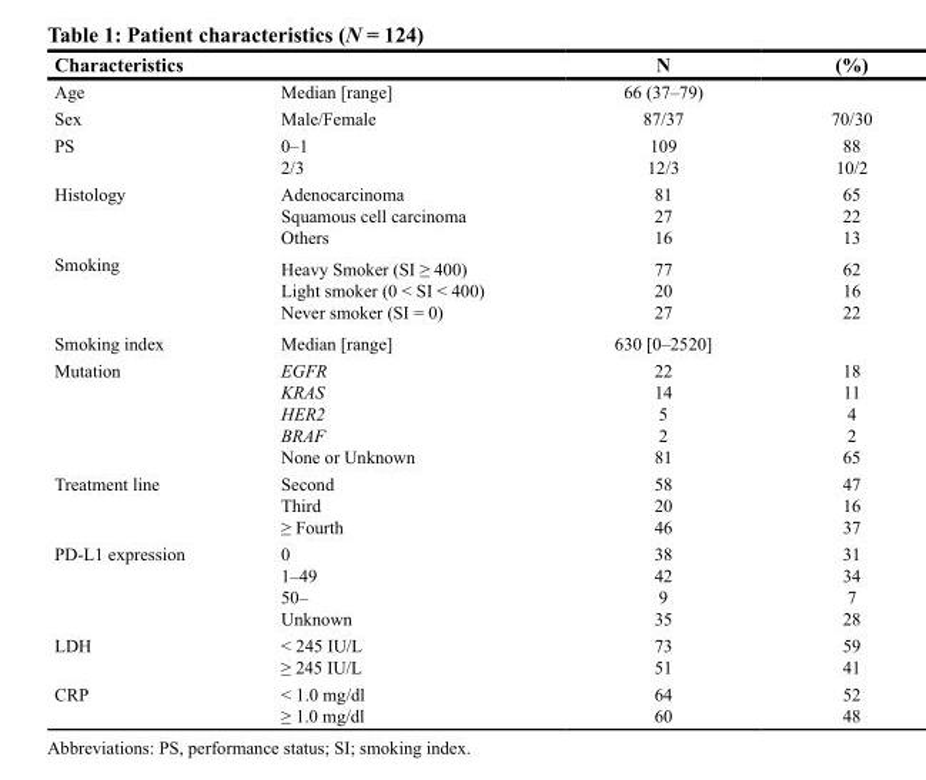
<table><thead><tr><td>Characteristics</td><td></td><td>N</td><td>(%)</td></tr></thead><tbody><tr><td>Age</td><td>Median [range]</td><td>66 (37–79)</td><td></td></tr><tr><td>Sex</td><td>Male/Female</td><td>87/37</td><td>70/30</td></tr><tr><td>PS</td><td>0–1 2/3</td><td>109 12/3</td><td>88 10/2</td></tr><tr><td>Histology</td><td>Adenocarcinoma Squamous cell carcinoma Others</td><td>81 27 16</td><td>65 22 13</td></tr><tr><td>Smoking</td><td>Heavy Smoker (SI ≥ 400) Light smoker (0 &lt; SI &lt; 400) Never smoker (SI = 0)</td><td>77 20 27</td><td>62 16 22</td></tr><tr><td>Smoking index</td><td>Median [range]</td><td>630 [0–2520]</td><td></td></tr><tr><td>Mutation</td><td>EGFR KRAS HER2 BRAF None or Unknown</td><td>22 14 5 2 81</td><td>18 11 4 2 65</td></tr><tr><td>Treatment line</td><td>Second Third ≥ Fourth</td><td>58 20 46</td><td>47 16 37</td></tr><tr><td>PD-L1 expression</td><td>0 1–49 50– Unknown</td><td>38 42 9 35</td><td>31 34 7 28</td></tr><tr><td>LDH</td><td>&lt; 245 IU/L ≥ 245 IU/L</td><td>73 51</td><td>59 41</td></tr><tr><td>CRP</td><td>&lt; 1.0 mg/dl ≥ 1.0 mg/dl</td><td>64 60</td><td>52 48</td></tr></tbody></table>